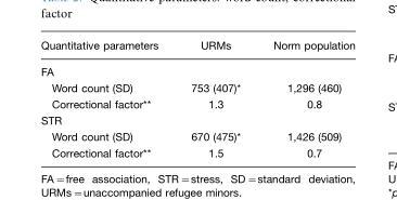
<table><thead><tr><td>Quantitative parameters</td><td>URMs</td><td>Norm population</td></tr></thead><tbody><tr><td colspan="3">FA</td></tr><tr><td>Word count (SD)</td><td>753 (407)*</td><td>1,296 (460)</td></tr><tr><td>Correctional factor**</td><td>1.3</td><td>0.8</td></tr><tr><td colspan="3">STR</td></tr><tr><td>Word count (SD)</td><td>670 (475)*</td><td>1,426 (509)</td></tr><tr><td>Correctional factor**</td><td>1.5</td><td>0.7</td></tr></tbody></table>